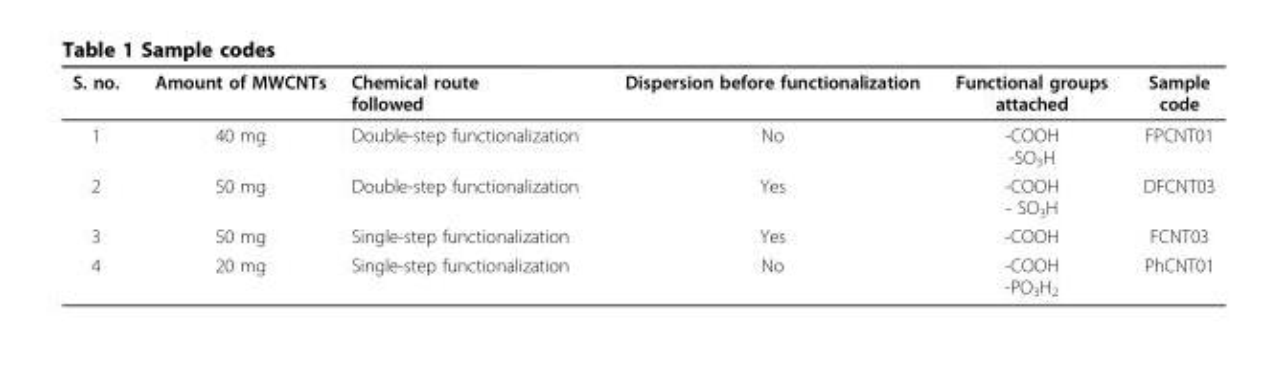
<table><thead><tr><td>S. no.</td><td>Amount of MWCNTs</td><td>Chemical route followed</td><td>Dispersion before functionalization</td><td>Functional groups attached</td><td>Sample code</td></tr></thead><tbody><tr><td>1</td><td>40 mg</td><td>Double-step functionalization</td><td>No</td><td>-COOH -SO<sub>3</sub>H</td><td>FPCNT01</td></tr><tr><td>2</td><td>50 mg</td><td>Double-step functionalization</td><td>Yes</td><td>-COOH - SO<sub>3</sub>H</td><td>DFCNT03</td></tr><tr><td>3</td><td>50 mg</td><td>Single-step functionalization</td><td>Yes</td><td>-COOH</td><td>FCNT03</td></tr><tr><td>4</td><td>20 mg</td><td>Single-step functionalization</td><td>No</td><td>-COOH -PO<sub>3</sub>H<sub>2</sub></td><td>PhCNT01</td></tr></tbody></table>